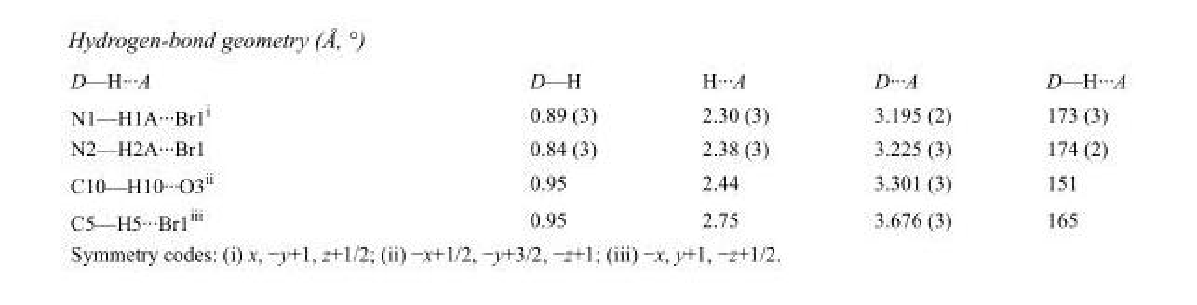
<table><tbody><tr><td>D—H···A</td><td>D—H</td><td>H···A</td><td>D···A</td><td>D—H···A</td></tr><tr><td>N1—H1A···Br1<sup>i</sup></td><td>0.89 (3)</td><td>2.30 (3)</td><td>3.195 (2)</td><td>173 (3)</td></tr><tr><td>N2—H2A···Br1</td><td>0.84 (3)</td><td>2.38 (3)</td><td>3.225 (3)</td><td>174 (2)</td></tr><tr><td>C10—H10···O3<sup>ii</sup></td><td>0.95</td><td>2.44</td><td>3.301 (3)</td><td>151</td></tr><tr><td>C5—H5···Br1<sup>iii</sup></td><td>0.95</td><td>2.75</td><td>3.676 (3)</td><td>165</td></tr></tbody></table>